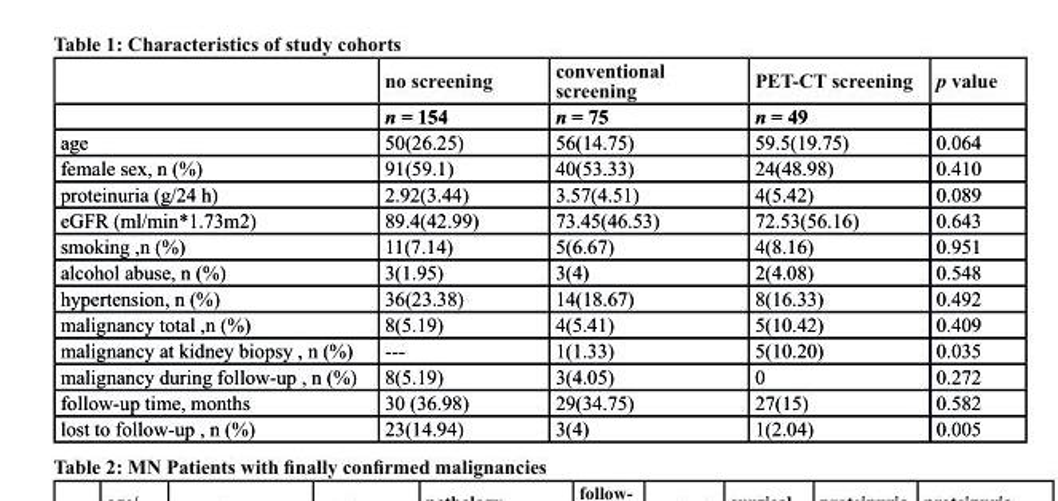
<table><thead><tr><td rowspan="2"></td><td rowspan="2">no screening n = 154</td><td rowspan="2">conventional screening n = 75</td><td rowspan="2">PEt-ct screening n = 49</td><td rowspan="2">p value</td></tr><tr></tr></thead><tbody><tr><td>age</td><td>50(26.25)</td><td>56(14.75)</td><td>59.5(19.75)</td><td>0.064</td></tr><tr><td>female sex, n (%)</td><td>91(59.1)</td><td>40(53.33)</td><td>24(48.98)</td><td>0.410</td></tr><tr><td>proteinuria (g/24 h)</td><td>2.92(3.44)</td><td>3.57(4.51)</td><td>4(5.42)</td><td>0.089</td></tr><tr><td>eGFR (ml/min*1.73m2)</td><td>89.4(42.99)</td><td>73.45(46.53)</td><td>72.53(56.16)</td><td>0.643</td></tr><tr><td>smoking ,n (%)</td><td>11(7.14)</td><td>5(6.67)</td><td>4(8.16)</td><td>0.951</td></tr><tr><td>alcohol abuse, n (%)</td><td>3(1.95)</td><td>3(4)</td><td>2(4.08)</td><td>0.548</td></tr><tr><td>hypertension, n (%)</td><td>36(23.38)</td><td>14(18.67)</td><td>8(16.33)</td><td>0.492</td></tr><tr><td>malignancy total ,n (%)</td><td>8(5.19)</td><td>4(5.41)</td><td>5(10.42)</td><td>0.409</td></tr><tr><td>malignancy at kidney biopsy , n (%)</td><td>---</td><td>1(1.33)</td><td>5(10.20)</td><td>0.035</td></tr><tr><td>malignancy during follow-up , n (%)</td><td>8(5.19)</td><td>3(4.05)</td><td>0</td><td>0.272</td></tr><tr><td>follow-up time, months</td><td>30 (36.98)</td><td>29(34.75)</td><td>27(15)</td><td>0.582</td></tr><tr><td>lost to follow-up , n (%)</td><td>23(14.94)</td><td>3(4)</td><td>1(2.04)</td><td>0.005</td></tr></tbody></table>